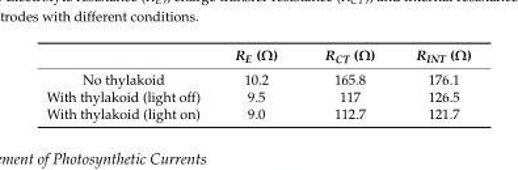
<table><thead><tr><td></td><td>R<sub>E</sub> (Ω)</td><td>R<sub>CT</sub> (Ω)</td><td>R<sub>INT</sub> (Ω)</td></tr></thead><tbody><tr><td>No thylakoid</td><td>10.2</td><td>165.8</td><td>176.1</td></tr><tr><td>With thylakoid (light off)</td><td>9.5</td><td>117</td><td>126.5</td></tr><tr><td>With thylakoid (light on)</td><td>9.0</td><td>112.7</td><td>121.7</td></tr></tbody></table>